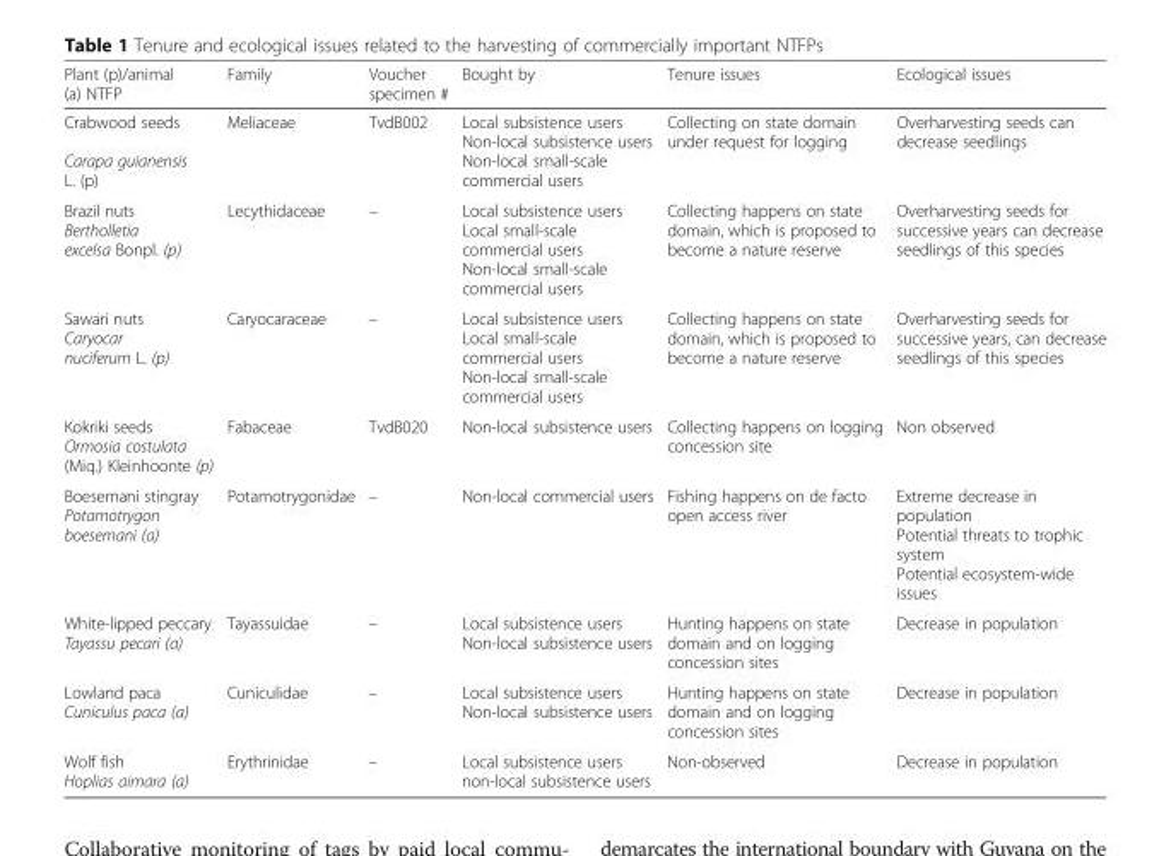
<table><thead><tr><td>Plant (p)/animal (a) NTFP</td><td>Family</td><td>Voucher specimen #</td><td>Bought by</td><td>Tenure issues</td><td>Ecological issues</td></tr></thead><tbody><tr><td>Crabwood seeds Carapa guianensis L. (p)</td><td>Meliaceae</td><td>TvdB002</td><td>Local subsistence users Non-local subsistence users Non-local small-scale commercial users</td><td>Collecting on state domain under request for logging</td><td>Overharvesting seeds can decrease seedlings</td></tr><tr><td>Brazil nuts Bertholletia excelsa Bonpl. (p)</td><td>Lecythidaceae</td><td>–</td><td>Local subsistence users Local small-scale commercial users Non-local small-scale commercial users</td><td>Collecting happens on state domain, which is proposed to become a nature reserve</td><td>Overharvesting seeds for successive years can decrease seedlings of this species</td></tr><tr><td>Sawari nuts Caryocar nuciferum L. (p)</td><td>Caryocaraceae</td><td>–</td><td>Local subsistence users Local small-scale commercial users Non-local small-scale commercial users</td><td>Collecting happens on state domain, which is proposed to become a nature reserve</td><td>Overharvesting seeds for successive years, can decrease seedlings of this species</td></tr><tr><td>Kokriki seeds Ormosia costulata (Miq.) Kleinhoonte (p)</td><td>Fabaceae</td><td>TvdB020</td><td>Non-local subsistence users</td><td>Collecting happens on logging concession site</td><td>Non observed</td></tr><tr><td>Boesemani stingray Potamotrygon boesemani (a)</td><td>Potamotrygonidae</td><td>–</td><td>Non-local commercial users</td><td>Fishing happens on de facto open access river</td><td>Extreme decrease in population Potential threats to trophic system Potential ecosystem-wide issues</td></tr><tr><td>White-lipped peccary Tayassu pecari (a)</td><td>Tayassuidae</td><td>–</td><td>Local subsistence users Non-local subsistence users</td><td>Hunting happens on state domain and on logging concession sites</td><td>Decrease in population</td></tr><tr><td>Lowland paca Cuniculus paca (a)</td><td>Cuniculidae</td><td>–</td><td>Local subsistence users Non-local subsistence users</td><td>Hunting happens on state domain and on logging concession sites</td><td>Decrease in population</td></tr><tr><td>Wolf fish Hoplias aimara (a)</td><td>Erythrinidae</td><td>–</td><td>Local subsistence users non-local subsistence users</td><td>Non-observed</td><td>Decrease in population</td></tr></tbody></table>